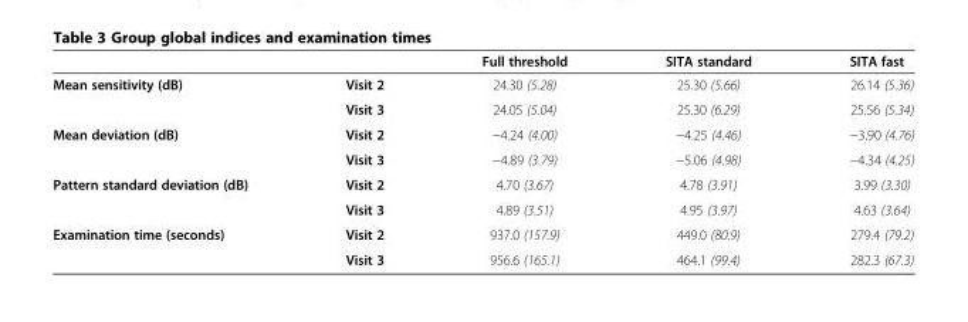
<table><thead><tr><td></td><td></td><td>Full threshold</td><td>SITA standard</td><td>SITA fast</td></tr></thead><tbody><tr><td rowspan="2">Mean sensitivity (dB)</td><td>Visit 2</td><td>24.30 (5.28)</td><td>25.30 (5.66)</td><td>26.14 (5.36)</td></tr><tr><td>Visit 3</td><td>24.05 (5.04)</td><td>25.30 (6.29)</td><td>25.56 (5.34)</td></tr><tr><td rowspan="2">Mean deviation (dB)</td><td>Visit 2</td><td>−4.24 (4.00)</td><td>−4.25 (4.46)</td><td>−3.90 (4.76)</td></tr><tr><td>Visit 3</td><td>−4.89 (3.79)</td><td>−5.06 (4.98)</td><td>−4.34 (4.25)</td></tr><tr><td rowspan="2">Pattern standard deviation (dB)</td><td>Visit 2</td><td>4.70 (3.67)</td><td>4.78 (3.91)</td><td>3.99 (3.30)</td></tr><tr><td>Visit 3</td><td>4.89 (3.51)</td><td>4.95 (3.97)</td><td>4.63 (3.64)</td></tr><tr><td rowspan="2">Examination time (seconds)</td><td>Visit 2</td><td>937.0 (157.9)</td><td>449.0 (80.9)</td><td>279.4 (79.2)</td></tr><tr><td>Visit 3</td><td>956.6 (165.1)</td><td>464.1 (99.4)</td><td>282.3 (67.3)</td></tr></tbody></table>